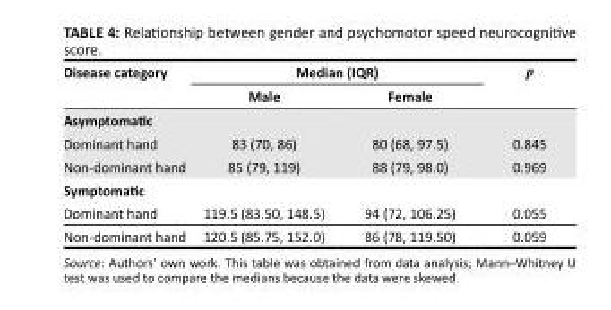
<table><thead><tr><td rowspan="2">Disease category</td><td colspan="2">Median (IQR)</td><td rowspan="2">p</td></tr><tr><td>Male</td><td>Female</td></tr></thead><tbody><tr><td colspan="4">Asymptomatic</td></tr><tr><td>Dominant hand</td><td>83 (70, 86)</td><td>80 (68, 97.5)</td><td>0.845</td></tr><tr><td>Non-dominant hand</td><td>85 (79, 119)</td><td>88 (79, 98.0)</td><td>0.969</td></tr><tr><td colspan="4">Symptomatic</td></tr><tr><td>Dominant hand</td><td>119.5 (83.50, 148.5)</td><td>94 (72, 106.25)</td><td>0.055</td></tr><tr><td>Non-dominant hand</td><td>120.5 (85.75, 152.0)</td><td>86 (78, 119.50)</td><td>0.059</td></tr></tbody></table>